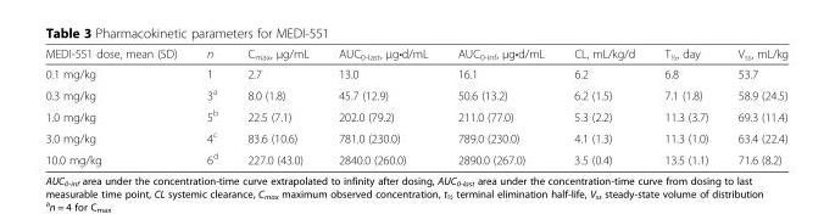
<table><thead><tr><td>MEDI-551 dose, mean (SD)</td><td>n</td><td>C<sub>max</sub>, μg/mL</td><td>AUC<sub>0-last</sub>, μg•d/mL</td><td>AUC<sub>0-inf</sub>, μg•d/mL</td><td>CL, mL/kg/d</td><td>T<sub>½</sub>, day</td><td>V<sub>ss</sub>, mL/kg</td></tr></thead><tbody><tr><td>0.1 mg/kg</td><td>1</td><td>2.7</td><td>13.0</td><td>16.1</td><td>6.2</td><td>6.8</td><td>53.7</td></tr><tr><td>0.3 mg/kg</td><td>3<sup>a</sup></td><td>8.0 (1.8)</td><td>45.7 (12.9)</td><td>50.6 (13.2)</td><td>6.2 (1.5)</td><td>7.1 (1.8)</td><td>58.9 (24.5)</td></tr><tr><td>1.0 mg/kg</td><td>5<sup>b</sup></td><td>22.5 (7.1)</td><td>202.0 (79.2)</td><td>211.0 (77.0)</td><td>5.3 (2.2)</td><td>11.3 (3.7)</td><td>69.3 (11.4)</td></tr><tr><td>3.0 mg/kg</td><td>4<sup>c</sup></td><td>83.6 (10.6)</td><td>781.0 (230.0)</td><td>789.0 (230.0)</td><td>4.1 (1.3)</td><td>11.3 (1.0)</td><td>63.4 (22.4)</td></tr><tr><td>10.0 mg/kg</td><td>6<sup>d</sup></td><td>227.0 (43.0)</td><td>2840.0 (260.0)</td><td>2890.0 (267.0)</td><td>3.5 (0.4)</td><td>13.5 (1.1)</td><td>71.6 (8.2)</td></tr></tbody></table>